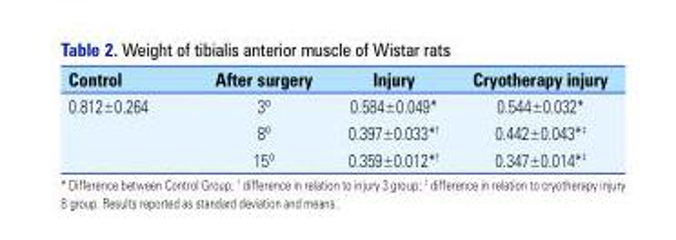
<table><thead><tr><td>Control</td><td>After surgery</td><td>Injury</td><td>Cryotherapy injury</td></tr></thead><tbody><tr><td rowspan="3">0.812±0.264</td><td>3º</td><td>0.584±0.049*</td><td>0.544±0.032*</td></tr><tr><td>8º</td><td>0.397±0.033*†</td><td>0.442±0.043*‡</td></tr><tr><td>15º</td><td>0.359±0.012*†</td><td>0.347±0.014*‡</td></tr></tbody></table>